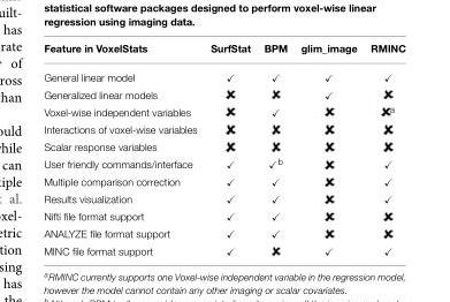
<table><thead><tr><td>Feature in VoxelStats</td><td>SurfStat</td><td>BPM</td><td>glim_image</td><td>RMINC</td></tr></thead><tbody><tr><td>General linear model</td><td>✓</td><td>✓</td><td>✓</td><td>✓</td></tr><tr><td>Generalized linear models</td><td></td><td></td><td>✓</td><td></td></tr><tr><td>Voxel-wise independent variables</td><td></td><td>✓</td><td></td><td><sup>a</sup></td></tr><tr><td colspan="5">Interactions of voxel-wise variables</td></tr><tr><td colspan="5">Scalar response variables</td></tr><tr><td>User friendly commands/interface</td><td>✓</td><td>✓<sup>b</sup></td><td></td><td>✓</td></tr><tr><td>Multiple comparison correction</td><td>✓</td><td>✓</td><td></td><td>✓</td></tr><tr><td>Results visualization</td><td>✓</td><td>✓</td><td></td><td>✓</td></tr><tr><td>Nifti file format support</td><td>✓</td><td>✓</td><td></td><td></td></tr><tr><td>ANALYZE file format support</td><td>✓</td><td>✓</td><td></td><td></td></tr><tr><td>MINC file format support</td><td>✓</td><td></td><td>✓</td><td>✓</td></tr></tbody></table>